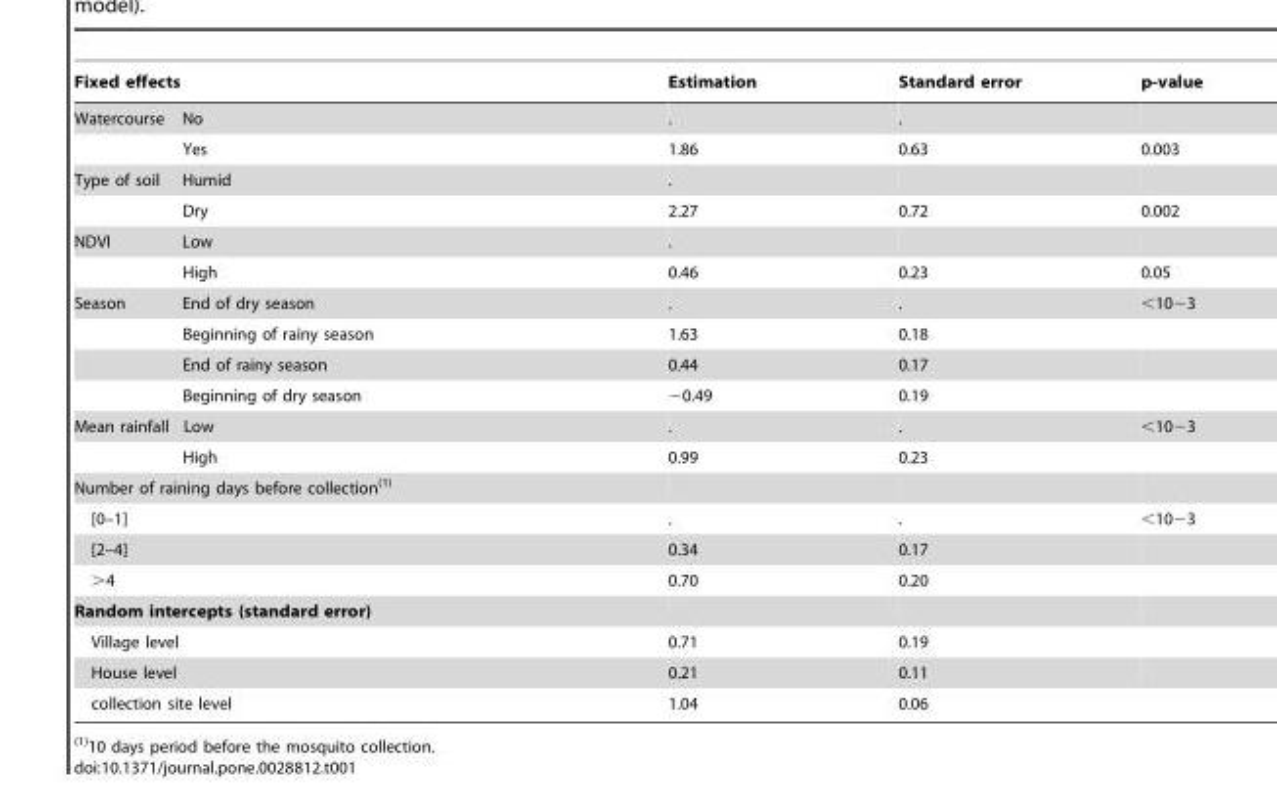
<table><thead><tr><td>Fixed effects</td><td>Estimation</td><td>Standard error</td><td>p-value</td></tr></thead><tbody><tr><td>Watercourse No</td><td>.</td><td>.</td><td></td></tr><tr><td>Yes</td><td>1.86</td><td>0.63</td><td>0.003</td></tr><tr><td>Type of soil Humid</td><td>.</td><td></td><td></td></tr><tr><td>Dry</td><td>2.27</td><td>0.72</td><td>0.002</td></tr><tr><td>NDVI Low</td><td>.</td><td></td><td></td></tr><tr><td>High</td><td>0.46</td><td>0.23</td><td>0.05</td></tr><tr><td>Season End of dry season</td><td>.</td><td>.</td><td>&lt;10−3</td></tr><tr><td>Beginning of rainy season</td><td>1.63</td><td>0.18</td><td></td></tr><tr><td>End of rainy season</td><td>0.44</td><td>0.17</td><td></td></tr><tr><td>Beginning of dry season</td><td>−0.49</td><td>0.19</td><td></td></tr><tr><td>Mean rainfall Low</td><td>.</td><td>.</td><td>&lt;10−3</td></tr><tr><td>High</td><td>0.99</td><td>0.23</td><td></td></tr><tr><td colspan="4">Number of raining days before collection(1)</td></tr><tr><td>[0–1]</td><td>.</td><td>.</td><td>&lt;10−3</td></tr><tr><td>[2–4]</td><td>0.34</td><td>0.17</td><td></td></tr><tr><td>&gt;4</td><td>0.70</td><td>0.20</td><td></td></tr><tr><td colspan="4">Random intercepts (standard error)</td></tr><tr><td>Village level</td><td>0.71</td><td>0.19</td><td></td></tr><tr><td>House level</td><td>0.21</td><td>0.11</td><td></td></tr><tr><td>collection site level</td><td>1.04</td><td>0.06</td><td></td></tr></tbody></table>